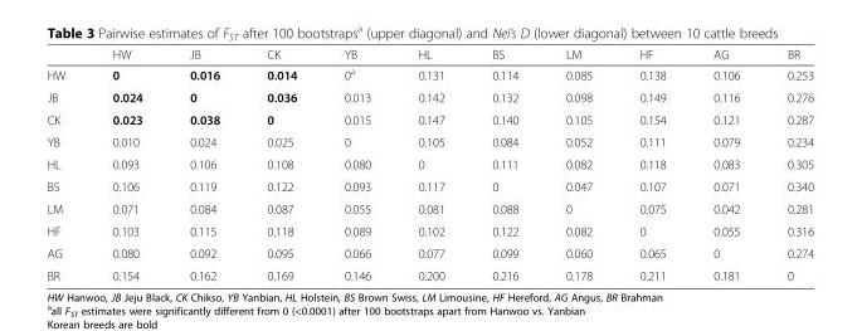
<table><thead><tr><td></td><td>HW</td><td>JB</td><td>CK</td><td>YB</td><td>HL</td><td>BS</td><td>LM</td><td>HF</td><td>AG</td><td>BR</td></tr></thead><tbody><tr><td>HW</td><td>0</td><td>0.016</td><td>0.014</td><td>0<sup>a</sup></td><td>0.131</td><td>0.114</td><td>0.085</td><td>0.138</td><td>0.106</td><td>0.253</td></tr><tr><td>JB</td><td>0.024</td><td>0</td><td>0.036</td><td>0.013</td><td>0.142</td><td>0.132</td><td>0.098</td><td>0.149</td><td>0.116</td><td>0.276</td></tr><tr><td>CK</td><td>0.023</td><td>0.038</td><td>0</td><td>0.015</td><td>0.147</td><td>0.140</td><td>0.105</td><td>0.154</td><td>0.121</td><td>0.287</td></tr><tr><td>YB</td><td>0.010</td><td>0.024</td><td>0.025</td><td>0</td><td>0.105</td><td>0.084</td><td>0.052</td><td>0.111</td><td>0.079</td><td>0.234</td></tr><tr><td>HL</td><td>0.093</td><td>0.106</td><td>0.108</td><td>0.080</td><td>0</td><td>0.111</td><td>0.082</td><td>0.118</td><td>0.083</td><td>0.305</td></tr><tr><td>BS</td><td>0.106</td><td>0.119</td><td>0.122</td><td>0.093</td><td>0.117</td><td>0</td><td>0.047</td><td>0.107</td><td>0.071</td><td>0.340</td></tr><tr><td>LM</td><td>0.071</td><td>0.084</td><td>0.087</td><td>0.055</td><td>0.081</td><td>0.088</td><td>0</td><td>0.075</td><td>0.042</td><td>0.281</td></tr><tr><td>HF</td><td>0.103</td><td>0.115</td><td>0.118</td><td>0.089</td><td>0.102</td><td>0.122</td><td>0.082</td><td>0</td><td>0.055</td><td>0.316</td></tr><tr><td>AG</td><td>0.080</td><td>0.092</td><td>0.095</td><td>0.066</td><td>0.077</td><td>0.099</td><td>0.060</td><td>0.065</td><td>0</td><td>0.274</td></tr><tr><td>BR</td><td>0.154</td><td>0.162</td><td>0.169</td><td>0.146</td><td>0.200</td><td>0.216</td><td>0.178</td><td>0.211</td><td>0.181</td><td>0</td></tr></tbody></table>